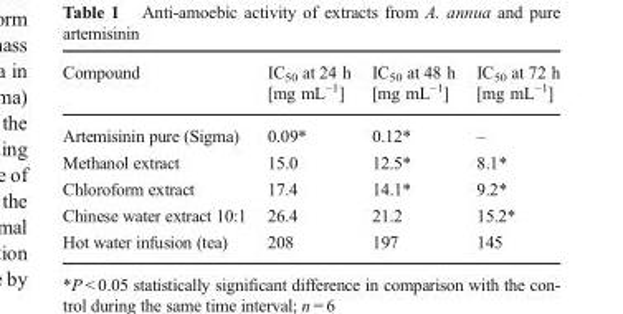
<table><thead><tr><td>Compound</td><td>IC<sub>50</sub> at 24 h [mg mL<sup>−1</sup>]</td><td>IC<sub>50</sub> at 48 h [mg mL<sup>−1</sup>]</td><td>IC<sub>50</sub> at 72 h [mg mL<sup>−1</sup>]</td></tr></thead><tbody><tr><td>Artemisinin pure (Sigma)</td><td>0.09*</td><td>0.12*</td><td>–</td></tr><tr><td>Methanol extract</td><td>15.0</td><td>12.5*</td><td>8.1*</td></tr><tr><td>Chloroform extract</td><td>17.4</td><td>14.1*</td><td>9.2*</td></tr><tr><td>Chinese water extract 10:1</td><td>26.4</td><td>21.2</td><td>15.2*</td></tr><tr><td>Hot water infusion (tea)</td><td>208</td><td>197</td><td>145</td></tr></tbody></table>